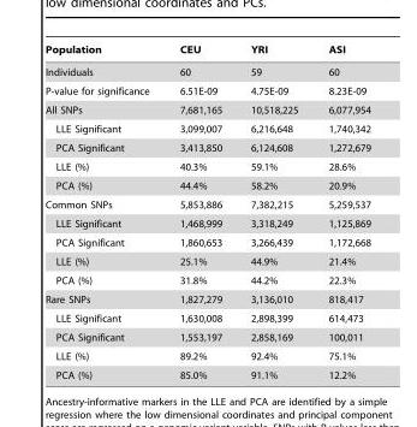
<table><thead><tr><td>Population</td><td>CEU</td><td>YRI</td><td>ASI</td></tr></thead><tbody><tr><td>Individuals</td><td>60</td><td>59</td><td>60</td></tr><tr><td>P-value for significance</td><td>6.51E-09</td><td>4.75E-09</td><td>8.23E-09</td></tr><tr><td>All SNPs</td><td>7,681,165</td><td>10,518,225</td><td>6,077,954</td></tr><tr><td>LLE Significant</td><td>3,099,007</td><td>6,216,648</td><td>1,740,342</td></tr><tr><td>PCA Significant</td><td>3,413,850</td><td>6,124,608</td><td>1,272,679</td></tr><tr><td>LLE (%)</td><td>40.3%</td><td>59.1%</td><td>28.6%</td></tr><tr><td>PCA (%)</td><td>44.4%</td><td>58.2%</td><td>20.9%</td></tr><tr><td>Common SNPs</td><td>5,853,886</td><td>7,382,215</td><td>5,259,537</td></tr><tr><td>LLE Significant</td><td>1,468,999</td><td>3,318,249</td><td>1,125,869</td></tr><tr><td>PCA Significant</td><td>1,860,653</td><td>3,266,439</td><td>1,172,668</td></tr><tr><td>LLE (%)</td><td>25.1%</td><td>44.9%</td><td>21.4%</td></tr><tr><td>PCA (%)</td><td>31.8%</td><td>44.2%</td><td>22.3%</td></tr><tr><td>Rare SNPs</td><td>1,827,279</td><td>3,136,010</td><td>818,417</td></tr><tr><td>LLE Significant</td><td>1,630,008</td><td>2,898,399</td><td>614,473</td></tr><tr><td>PCA Significant</td><td>1,553,197</td><td>2,858,169</td><td>100,011</td></tr><tr><td>LLE (%)</td><td>89.2%</td><td>92.4%</td><td>75.1%</td></tr><tr><td>PCA (%)</td><td>85.0%</td><td>91.1%</td><td>12.2%</td></tr></tbody></table>